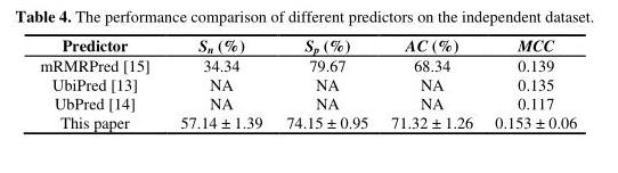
<table><thead><tr><td>Predictor</td><td>S<sub>n</sub> (%)</td><td>S<sub>p</sub> (%)</td><td>AC (%)</td><td>MCC</td></tr></thead><tbody><tr><td>mRMRPred [15]</td><td>34.34</td><td>79.67</td><td>68.34</td><td>0.139</td></tr><tr><td>UbiPred [13]</td><td>NA</td><td>NA</td><td>NA</td><td>0.135</td></tr><tr><td>UbPred [14]</td><td>NA</td><td>NA</td><td>NA</td><td>0.117</td></tr><tr><td>This paper</td><td>57.14 ± 1.39</td><td>74.15 ± 0.95</td><td>71.32 ± 1.26</td><td>0.153 ± 0.06</td></tr></tbody></table>